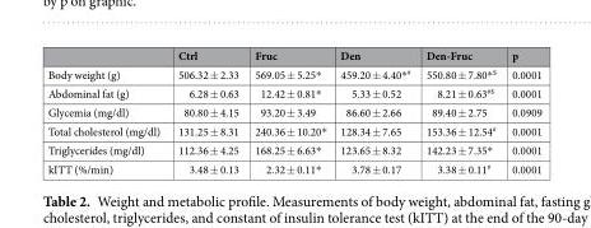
<table><thead><tr><td></td><td>Ctrl</td><td>Fruc</td><td>Den</td><td>Den-Fruc</td><td>p</td></tr></thead><tbody><tr><td>Body weight (g)</td><td>506.32 ± 2.33</td><td>569.05 ± 5.25*</td><td>459.20 ± 4.40*<sup>#</sup></td><td>550.80 ± 7.80*<sup>$</sup></td><td>0.0001</td></tr><tr><td>Abdominal fat (g)</td><td>6.28 ± 0.63</td><td>12.42 ± 0.81*</td><td>5.33 ± 0.52</td><td>8.21 ± 0.63<sup>#$</sup></td><td>0.0001</td></tr><tr><td>Glycemia (mg/dl)</td><td>80.80 ± 4.15</td><td>93.20 ± 3.49</td><td>86.60 ± 2.66</td><td>89.40 ± 2.75</td><td>0.0909</td></tr><tr><td>Total cholesterol (mg/dl)</td><td>131.25 ± 8.31</td><td>240.36 ± 10.20*</td><td>128.34 ± 7.65</td><td>153.36 ± 12.54<sup>#</sup></td><td>0.0001</td></tr><tr><td>Triglycerides (mg/dl)</td><td>112.36 ± 4.25</td><td>168.25 ± 6.63*</td><td>123.65 ± 8.32</td><td>142.23 ± 7.35*</td><td>0.0001</td></tr><tr><td>kITT (%/min)</td><td>3.48 ± 0.13</td><td>2.32 ± 0.11*</td><td>3.78 ± 0.17</td><td>3.38 ± 0.11<sup>#</sup></td><td>0.0001</td></tr></tbody></table>